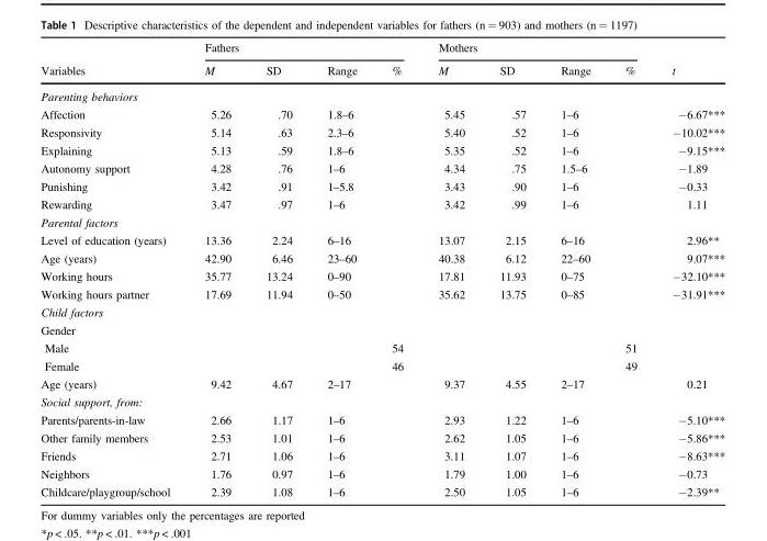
<table><thead><tr><td rowspan="2">Variables</td><td colspan="4">Fathers</td><td colspan="4">Mothers</td><td rowspan="2">t</td></tr><tr><td>M</td><td>SD</td><td>Range</td><td>%</td><td>M</td><td>SD</td><td>Range</td><td>%</td></tr></thead><tbody><tr><td colspan="10">Parenting behaviors</td></tr><tr><td>Affection</td><td>5.26</td><td>.70</td><td>1.8–6</td><td></td><td>5.45</td><td>.57</td><td>1–6</td><td></td><td>−6.67***</td></tr><tr><td>Responsivity</td><td>5.14</td><td>.63</td><td>2.3–6</td><td></td><td>5.40</td><td>.52</td><td>1–6</td><td></td><td>−10.02***</td></tr><tr><td>Explaining</td><td>5.13</td><td>.59</td><td>1.8–6</td><td></td><td>5.35</td><td>.52</td><td>1–6</td><td></td><td>−9.15***</td></tr><tr><td>Autonomy support</td><td>4.28</td><td>.76</td><td>1–6</td><td></td><td>4.34</td><td>.75</td><td>1.5–6</td><td></td><td>−1.89</td></tr><tr><td>Punishing</td><td>3.42</td><td>.91</td><td>1–5.8</td><td></td><td>3.43</td><td>.90</td><td>1–6</td><td></td><td>−0.33</td></tr><tr><td>Rewarding</td><td>3.47</td><td>.97</td><td>1–6</td><td></td><td>3.42</td><td>.99</td><td>1–6</td><td></td><td>1.11</td></tr><tr><td colspan="10">Parental factors</td></tr><tr><td>Level of education (years)</td><td>13.36</td><td>2.24</td><td>6–16</td><td></td><td>13.07</td><td>2.15</td><td>6–16</td><td></td><td>2.96**</td></tr><tr><td>Age (years)</td><td>42.90</td><td>6.46</td><td>23–60</td><td></td><td>40.38</td><td>6.12</td><td>22–60</td><td></td><td>9.07***</td></tr><tr><td>Working hours</td><td>35.77</td><td>13.24</td><td>0–90</td><td></td><td>17.81</td><td>11.93</td><td>0–75</td><td></td><td>−32.10***</td></tr><tr><td>Working hours partner</td><td>17.69</td><td>11.94</td><td>0–50</td><td></td><td>35.62</td><td>13.75</td><td>0–85</td><td></td><td>−31.91***</td></tr><tr><td colspan="10">Child factors</td></tr><tr><td colspan="10">Gender</td></tr><tr><td>Male</td><td></td><td></td><td></td><td>54</td><td></td><td></td><td></td><td>51</td><td></td></tr><tr><td>Female</td><td></td><td></td><td></td><td>46</td><td></td><td></td><td></td><td>49</td><td></td></tr><tr><td>Age (years)</td><td>9.42</td><td>4.67</td><td>2–17</td><td></td><td>9.37</td><td>4.55</td><td>2–17</td><td></td><td>0.21</td></tr><tr><td colspan="10">Social support, from:</td></tr><tr><td>Parents/parents-in-law</td><td>2.66</td><td>1.17</td><td>1–6</td><td></td><td>2.93</td><td>1.22</td><td>1–6</td><td></td><td>−5.10***</td></tr><tr><td>Other family members</td><td>2.53</td><td>1.01</td><td>1–6</td><td></td><td>2.62</td><td>1.05</td><td>1–6</td><td></td><td>−5.86***</td></tr><tr><td>Friends</td><td>2.71</td><td>1.06</td><td>1–6</td><td></td><td>3.11</td><td>1.07</td><td>1–6</td><td></td><td>−8.63***</td></tr><tr><td>Neighbors</td><td>1.76</td><td>0.97</td><td>1–6</td><td></td><td>1.79</td><td>1.00</td><td>1–6</td><td></td><td>−0.73</td></tr><tr><td>Childcare/playgroup/school</td><td>2.39</td><td>1.08</td><td>1–6</td><td></td><td>2.50</td><td>1.05</td><td>1–6</td><td></td><td>−2.39**</td></tr></tbody></table>